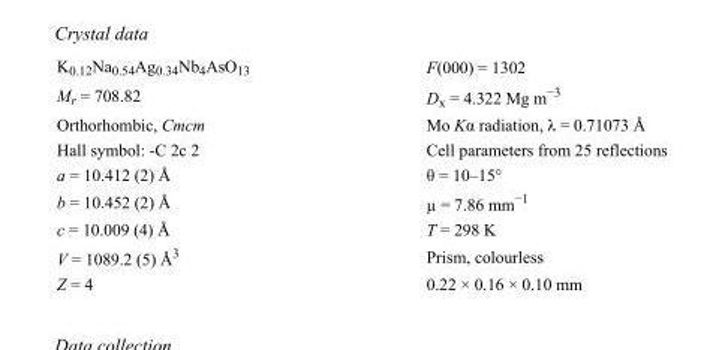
<table><tbody><tr><td>K<sub>0.12</sub>Na<sub>0.54</sub>Ag<sub>0.34</sub>Nb<sub>4</sub>AsO<sub>13</sub></td><td>F(000) = 1302</td></tr><tr><td>M<sub>r</sub> = 708.82</td><td>D<sub>x</sub> = 4.322 Mg m<sup>−3</sup></td></tr><tr><td>Orthorhombic, Cmcm</td><td>Mo Kα radiation, λ = 0.71073 Å</td></tr><tr><td>Hall symbol: -C 2c 2</td><td>Cell parameters from 25 reflections</td></tr><tr><td>a = 10.412 (2) Å</td><td>θ = 10–15°</td></tr><tr><td>b = 10.452 (2) Å</td><td>µ = 7.86 mm<sup>−1</sup></td></tr><tr><td>c = 10.009 (4) Å</td><td>T = 298 K</td></tr><tr><td>V = 1089.2 (5) Å<sup>3</sup></td><td>Prism, colourless</td></tr><tr><td>Z = 4</td><td>0.22 × 0.16 × 0.10 mm</td></tr></tbody></table>